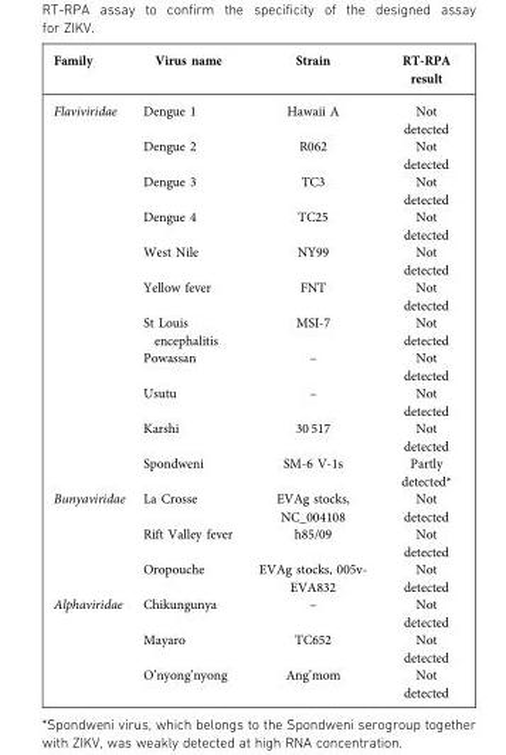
<table><thead><tr><td>Family</td><td>Virus name</td><td>Strain</td><td>RT-RPA result</td></tr></thead><tbody><tr><td rowspan="11">Flaviviridae</td><td>Dengue 1</td><td>Hawaii A</td><td>Not detected</td></tr><tr><td>Dengue 2</td><td>R062</td><td>Not detected</td></tr><tr><td>Dengue 3</td><td>TC3</td><td>Not detected</td></tr><tr><td>Dengue 4</td><td>TC25</td><td>Not detected</td></tr><tr><td>West Nile</td><td>NY99</td><td>Not detected</td></tr><tr><td>Yellow fever</td><td>FNT</td><td>Not detected</td></tr><tr><td>St Louis encephalitis</td><td>MSI-7</td><td>Not detected</td></tr><tr><td>Powassan</td><td>–</td><td>Not detected</td></tr><tr><td>Usutu</td><td>–</td><td>Not detected</td></tr><tr><td>Karshi</td><td>30 517</td><td>Not detected</td></tr><tr><td>Spondweni</td><td>SM-6 V-1s</td><td>Partly detected*</td></tr><tr><td rowspan="3">Bunyaviridae</td><td>La Crosse</td><td>EVAg stocks, NC_004108</td><td>Not detected</td></tr><tr><td>Rift Valley fever</td><td>h85/09</td><td>Not detected</td></tr><tr><td>Oropouche</td><td>EVAg stocks, 005v- EVA832</td><td>Not detected</td></tr><tr><td rowspan="3">Alphaviridae</td><td>Chikungunya</td><td>–</td><td>Not detected</td></tr><tr><td>Mayaro</td><td>TC652</td><td>Not detected</td></tr><tr><td>O’nyong’nyong</td><td>Ang’mom</td><td>Not detected</td></tr></tbody></table>